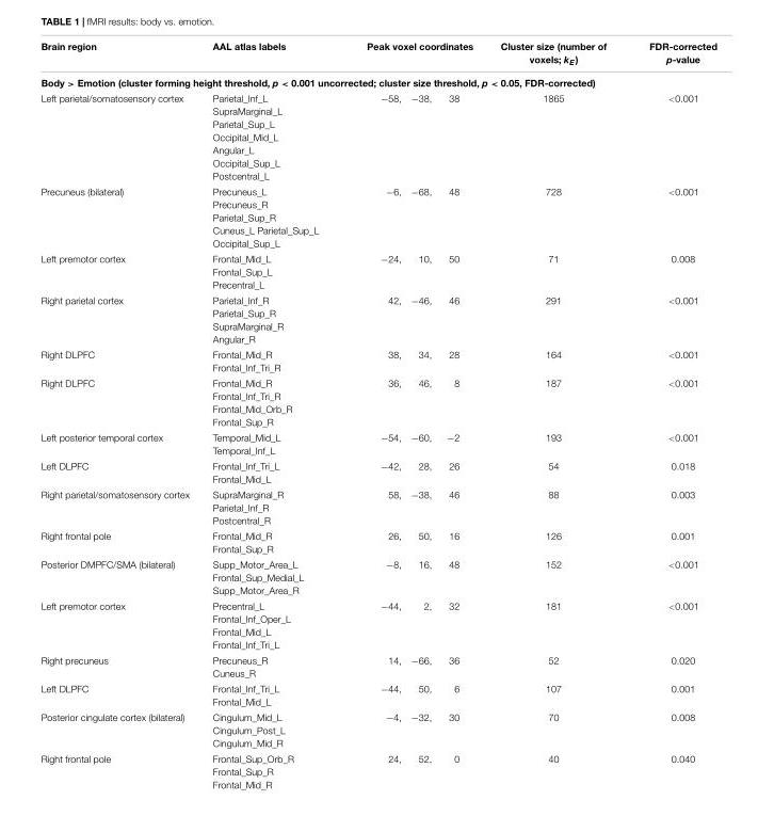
<table><thead><tr><td>Brain region</td><td>AAL atlas labels</td><td>Peak voxel coordinates</td><td>Cluster size (number of voxels; k<sub>E</sub>)</td><td>FDR-corrected p-value</td></tr></thead><tbody><tr><td colspan="5">Body &gt; Emotion (cluster forming height threshold, p &lt; 0.001 uncorrected; cluster size threshold, p &lt; 0.05, FDR-corrected)</td></tr><tr><td>Left parietal/somatosensory cortex</td><td>Parietal_Inf_L SupraMarginal_L Parietal_Sup_L Occipital_Mid_L Angular_L Occipital_Sup_L Postcentral_L</td><td>−58, −38, 38</td><td>1865</td><td>&lt;0.001</td></tr><tr><td>Precuneus (bilateral)</td><td>Precuneus_L Precuneus_R Parietal_Sup_R Cuneus_L Parietal_Sup_L Occipital_Sup_L</td><td>−6, −68, 48</td><td>728</td><td>&lt;0.001</td></tr><tr><td>Left premotor cortex</td><td>Frontal_Mid_L Frontal_Sup_L Precentral_L</td><td>−24, 10, 50</td><td>71</td><td>0.008</td></tr><tr><td>Right parietal cortex</td><td>Parietal_Inf_R Parietal_Sup_R SupraMarginal_R Angular_R</td><td>42, −46, 46</td><td>291</td><td>&lt;0.001</td></tr><tr><td>Right DLPFC</td><td>Frontal_Mid_R Frontal_Inf_Tri_R</td><td>38, 34, 28</td><td>164</td><td>&lt;0.001</td></tr><tr><td>Right DLPFC</td><td>Frontal_Mid_R Frontal_Inf_Tri_R Frontal_Mid_Orb_R Frontal_Sup_R</td><td>36, 46, 8</td><td>187</td><td>&lt;0.001</td></tr><tr><td>Left posterior temporal cortex</td><td>Temporal_Mid_L Temporal_Inf_L</td><td>−54, −60, −2</td><td>193</td><td>&lt;0.001</td></tr><tr><td>Left DLPFC</td><td>Frontal_Inf_Tri_L Frontal_Mid_L</td><td>−42, 28, 26</td><td>54</td><td>0.018</td></tr><tr><td>Right parietal/somatosensory cortex</td><td>SupraMarginal_R Parietal_Inf_R Postcentral_R</td><td>58, −38, 46</td><td>88</td><td>0.003</td></tr><tr><td>Right frontal pole</td><td>Frontal_Mid_R Frontal_Sup_R</td><td>26, 50, 16</td><td>126</td><td>0.001</td></tr><tr><td>Posterior DMPFC/SMA (bilateral)</td><td>Supp_Motor_Area_L Frontal_Sup_Medial_L Supp_Motor_Area_R</td><td>−8, 16, 48</td><td>152</td><td>&lt;0.001</td></tr><tr><td>Left premotor cortex</td><td>Precentral_L Frontal_Inf_Oper_L Frontal_Mid_L Frontal_Inf_Tri_L</td><td>−44, 2, 32</td><td>181</td><td>&lt;0.001</td></tr><tr><td>Right precuneus</td><td>Precuneus_R Cuneus_R</td><td>14, −66, 36</td><td>52</td><td>0.020</td></tr><tr><td>Left DLPFC</td><td>Frontal_Inf_Tri_L Frontal_Mid_L</td><td>−44, 50, 6</td><td>107</td><td>0.001</td></tr><tr><td>Posterior cingulate cortex (bilateral)</td><td>Cingulum_Mid_L Cingulum_Post_L Cingulum_Mid_R</td><td>−4, −32, 30</td><td>70</td><td>0.008</td></tr><tr><td>Right frontal pole</td><td>Frontal_Sup_Orb_R Frontal_Sup_R Frontal_Mid_R</td><td>24, 52, 0</td><td>40</td><td>0.040</td></tr></tbody></table>